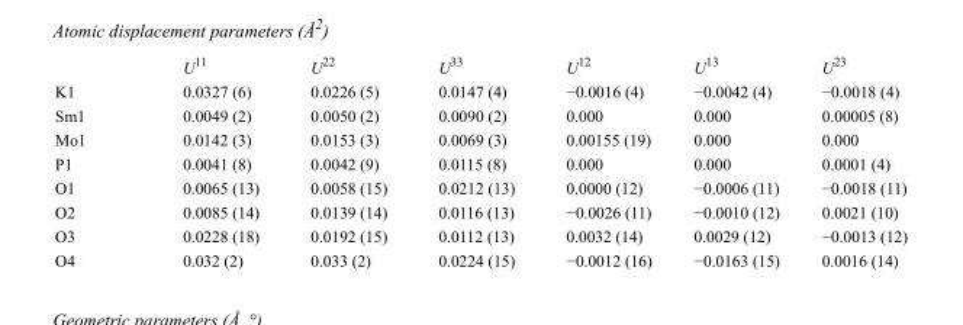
<table><thead><tr><td></td><td>U<sup>11</sup></td><td>U<sup>22</sup></td><td>U<sup>33</sup></td><td>U<sup>12</sup></td><td>U<sup>13</sup></td><td>U<sup>23</sup></td></tr></thead><tbody><tr><td>K1</td><td>0.0327 (6)</td><td>0.0226 (5)</td><td>0.0147 (4)</td><td>−0.0016 (4)</td><td>−0.0042 (4)</td><td>−0.0018 (4)</td></tr><tr><td>Sm1</td><td>0.0049 (2)</td><td>0.0050 (2)</td><td>0.0090 (2)</td><td>0.000</td><td>0.000</td><td>0.00005 (8)</td></tr><tr><td>Mo1</td><td>0.0142 (3)</td><td>0.0153 (3)</td><td>0.0069 (3)</td><td>0.00155 (19)</td><td>0.000</td><td>0.000</td></tr><tr><td>P1</td><td>0.0041 (8)</td><td>0.0042 (9)</td><td>0.0115 (8)</td><td>0.000</td><td>0.000</td><td>0.0001 (4)</td></tr><tr><td>O1</td><td>0.0065 (13)</td><td>0.0058 (15)</td><td>0.0212 (13)</td><td>0.0000 (12)</td><td>−0.0006 (11)</td><td>−0.0018 (11)</td></tr><tr><td>O2</td><td>0.0085 (14)</td><td>0.0139 (14)</td><td>0.0116 (13)</td><td>−0.0026 (11)</td><td>−0.0010 (12)</td><td>0.0021 (10)</td></tr><tr><td>O3</td><td>0.0228 (18)</td><td>0.0192 (15)</td><td>0.0112 (13)</td><td>0.0032 (14)</td><td>0.0029 (12)</td><td>−0.0013 (12)</td></tr><tr><td>O4</td><td>0.032 (2)</td><td>0.033 (2)</td><td>0.0224 (15)</td><td>−0.0012 (16)</td><td>−0.0163 (15)</td><td>0.0016 (14)</td></tr></tbody></table>